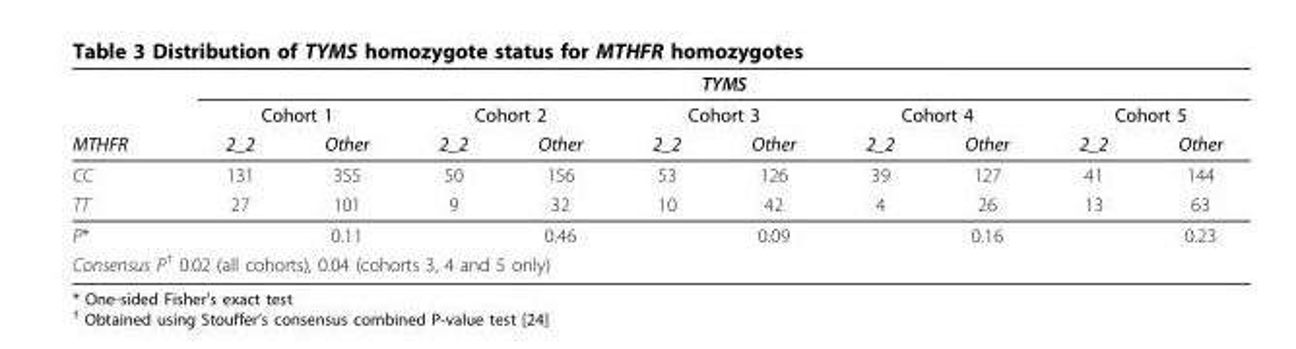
<table><thead><tr><td rowspan="3">MTHFR</td><td colspan="10">TYMS</td></tr><tr><td colspan="2">Cohort 1</td><td colspan="2">Cohort 2</td><td colspan="2">Cohort 3</td><td colspan="2">Cohort 4</td><td colspan="2">Cohort 5</td></tr><tr><td>2_2</td><td>Other</td><td>2_2</td><td>Other</td><td>2_2</td><td>Other</td><td>2_2</td><td>Other</td><td>2_2</td><td>Other</td></tr></thead><tbody><tr><td>CC</td><td>131</td><td>355</td><td>50</td><td>156</td><td>53</td><td>126</td><td>39</td><td>127</td><td>41</td><td>144</td></tr><tr><td>TT</td><td>27</td><td>101</td><td>9</td><td>32</td><td>10</td><td>42</td><td>4</td><td>26</td><td>13</td><td>63</td></tr><tr><td>P*</td><td></td><td>0.11</td><td></td><td>0.46</td><td></td><td>0.09</td><td></td><td>0.16</td><td></td><td>0.23</td></tr><tr><td colspan="11">Consensus P<sup>†</sup> 0.02 (all cohorts), 0.04 (cohorts 3, 4 and 5 only)</td></tr></tbody></table>